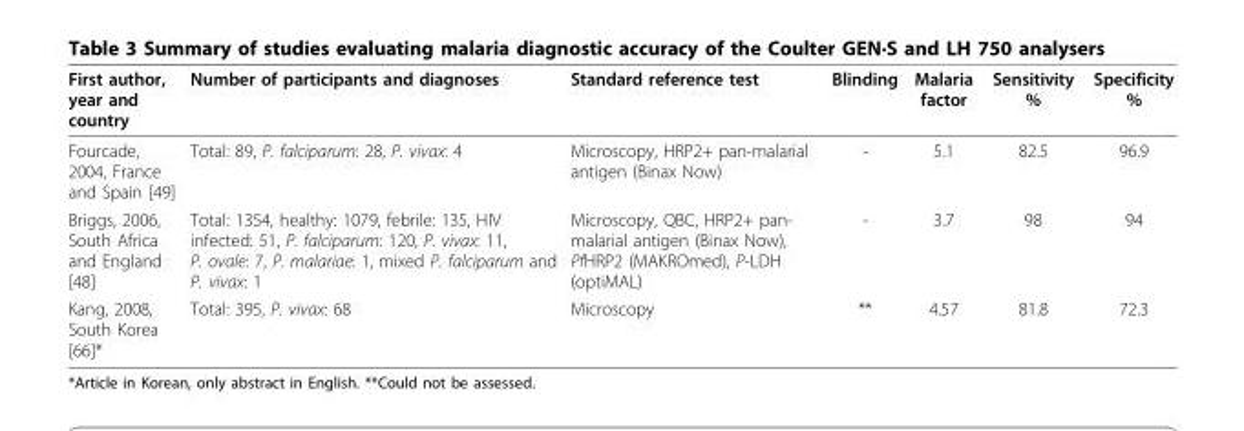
<table><thead><tr><td>First author, year and country</td><td>Number of participants and diagnoses</td><td>Standard reference test</td><td>Blinding</td><td>Malaria factor</td><td>Sensitivity %</td><td>Specificity %</td></tr></thead><tbody><tr><td>Fourcade, 2004, France and Spain [49]</td><td>Total: 89, P. falciparum: 28, P. vivax: 4</td><td>Microscopy, HRP2+ pan-malarial antigen (Binax Now)</td><td>-</td><td>5.1</td><td>82.5</td><td>96.9</td></tr><tr><td>Briggs, 2006, South Africa and England [48]</td><td>Total: 1354, healthy: 1079, febrile: 135, HIV infected: 51, P. falciparum: 120, P. vivax: 11, P. ovale: 7, P. malariae: 1, mixed P. falciparum and P. vivax: 1</td><td>Microscopy, QBC, HRP2+ pan- malarial antigen (Binax Now), PfHRP2 (MAKROmed), P-LDH (optiMAL)</td><td>-</td><td>3.7</td><td>98</td><td>94</td></tr><tr><td>Kang, 2008, South Korea [66]*</td><td>Total: 395, P. vivax: 68</td><td>Microscopy</td><td>**</td><td>4.57</td><td>81.8</td><td>72.3</td></tr></tbody></table>